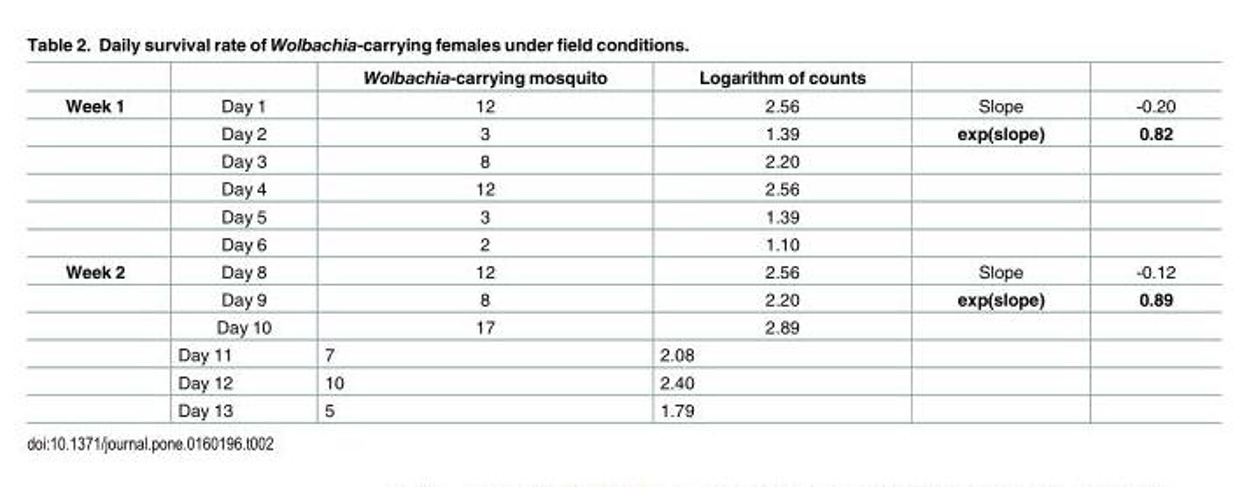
<table><thead><tr><td></td><td></td><td>Wolbachia-carrying mosquito</td><td>Logarithm of counts</td><td></td><td></td></tr></thead><tbody><tr><td rowspan="6">Week 1</td><td>Day 1</td><td>12</td><td>2.56</td><td>Slope</td><td>-0.20</td></tr><tr><td>Day 2</td><td>3</td><td>1.39</td><td>exp(slope)</td><td>0.82</td></tr><tr><td>Day 3</td><td>8</td><td>2.20</td><td></td><td></td></tr><tr><td>Day 4</td><td>12</td><td>2.56</td><td></td><td></td></tr><tr><td>Day 5</td><td>3</td><td>1.39</td><td></td><td></td></tr><tr><td>Day 6</td><td>2</td><td>1.10</td><td></td><td></td></tr><tr><td rowspan="6">Week 2</td><td>Day 8</td><td>12</td><td>2.56</td><td>Slope</td><td>-0.12</td></tr><tr><td>Day 9</td><td>8</td><td>2.20</td><td>exp(slope)</td><td>0.89</td></tr><tr><td>Day 10</td><td>17</td><td>2.89</td><td></td><td></td></tr><tr><td>Day 11</td><td>7</td><td>2.08</td><td></td><td></td></tr><tr><td>Day 12</td><td>10</td><td>2.40</td><td></td><td></td></tr><tr><td>Day 13</td><td>5</td><td>1.79</td><td></td><td></td></tr></tbody></table>